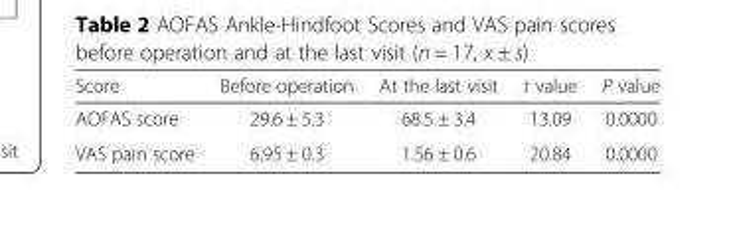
<table><thead><tr><td>Score</td><td>Before operation</td><td>At the last visit</td><td>t value</td><td>P value</td></tr></thead><tbody><tr><td>AOFAS score</td><td>29.6 ± 5.3</td><td>68.5 ± 3.4</td><td>13.09</td><td>0.0000</td></tr><tr><td>VAS pain score</td><td>6.95 ± 0.3</td><td>1.56 ± 0.6</td><td>20.84</td><td>0.0000</td></tr></tbody></table>